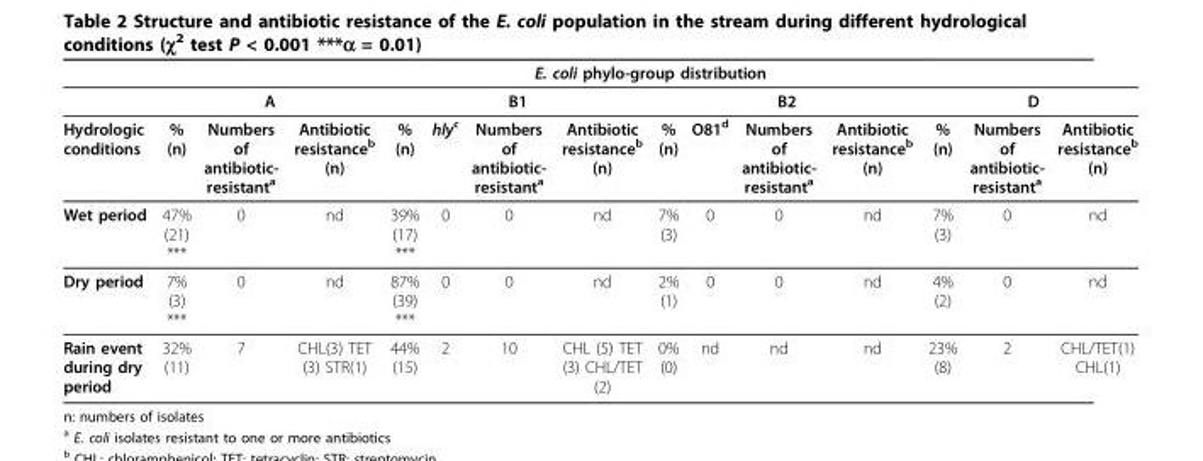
<table><thead><tr><td rowspan="3">Hydrologic conditions</td><td colspan="14">E. coli phylo-group distribution</td></tr><tr><td colspan="3">A</td><td colspan="4">B1</td><td colspan="4">B2</td><td colspan="3">D</td></tr><tr><td>% (n)</td><td>Numbers of antibiotic- resistant<sup>a</sup></td><td>Antibiotic resistance<sup>b</sup> (n)</td><td>% (n)</td><td>hly<sup>c</sup></td><td>Numbers of antibiotic- resistant<sup>a</sup></td><td>Antibiotic resistance<sup>b</sup> (n)</td><td>% (n)</td><td>O81<sup>d</sup></td><td>Numbers of antibiotic- resistant<sup>a</sup></td><td>Antibiotic resistance<sup>b</sup> (n)</td><td>% (n)</td><td>Numbers of antibiotic- resistant<sup>a</sup></td><td>Antibiotic resistance<sup>b</sup> (n)</td></tr></thead><tbody><tr><td>Wet period</td><td>47% (21) ***</td><td>0</td><td>nd</td><td>39% (17) ***</td><td>0</td><td>0</td><td>nd</td><td>7% (3)</td><td>0</td><td>0</td><td>nd</td><td>7% (3)</td><td>0</td><td>nd</td></tr><tr><td>Dry period</td><td>7% (3) ***</td><td>0</td><td>nd</td><td>87% (39) ***</td><td>0</td><td>0</td><td>nd</td><td>2% (1)</td><td>0</td><td>0</td><td>nd</td><td>4% (2)</td><td>0</td><td>nd</td></tr><tr><td>Rain event during dry period</td><td>32% (11)</td><td>7</td><td>CHL(3) TET (3) STR(1)</td><td>44% (15)</td><td>2</td><td>10</td><td>CHL (5) TET (3) CHL/TET (2)</td><td>0% (0)</td><td>nd</td><td>nd</td><td>nd</td><td>23% (8)</td><td>2</td><td>CHL/TET(1) CHL(1)</td></tr></tbody></table>